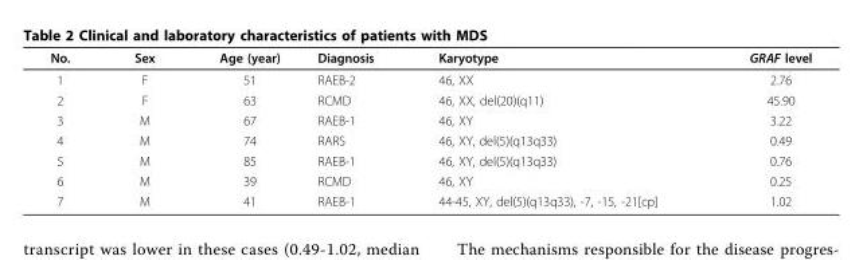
<table><thead><tr><td>No.</td><td>Sex</td><td>Age (year)</td><td>Diagnosis</td><td>Karyotype</td><td>GRAF level</td></tr></thead><tbody><tr><td>1</td><td>F</td><td>51</td><td>RAEB-2</td><td>46, XX</td><td>2.76</td></tr><tr><td>2</td><td>F</td><td>63</td><td>RCMD</td><td>46, XX, del(20)(q11)</td><td>45.90</td></tr><tr><td>3</td><td>M</td><td>67</td><td>RAEB-1</td><td>46, XY</td><td>3.22</td></tr><tr><td>4</td><td>M</td><td>74</td><td>RARS</td><td>46, XY, del(5)(q13q33)</td><td>0.49</td></tr><tr><td>5</td><td>M</td><td>85</td><td>RAEB-1</td><td>46, XY, del(5)(q13q33)</td><td>0.76</td></tr><tr><td>6</td><td>M</td><td>39</td><td>RCMD</td><td>46, XY</td><td>0.25</td></tr><tr><td>7</td><td>M</td><td>41</td><td>RAEB-1</td><td>44-45, XY, del(5)(q13q33), -7, -15, -21[cp]</td><td>1.02</td></tr></tbody></table>